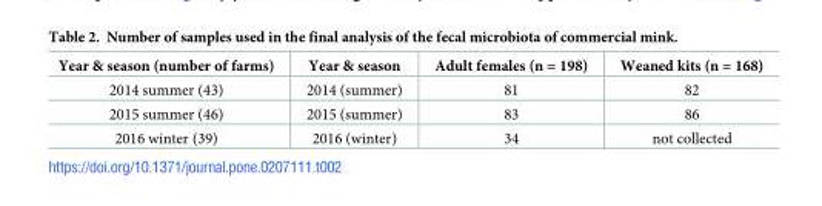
<table><thead><tr><td>Year &amp; season (number of farms)</td><td>Year &amp; season</td><td>Adult females (n = 198)</td><td>Weaned kits (n = 168)</td></tr></thead><tbody><tr><td>2014 summer (43)</td><td>2014 (summer)</td><td>81</td><td>82</td></tr><tr><td>2015 summer (46)</td><td>2015 (summer)</td><td>83</td><td>86</td></tr><tr><td>2016 winter (39)</td><td>2016 (winter)</td><td>34</td><td>not collected</td></tr></tbody></table>